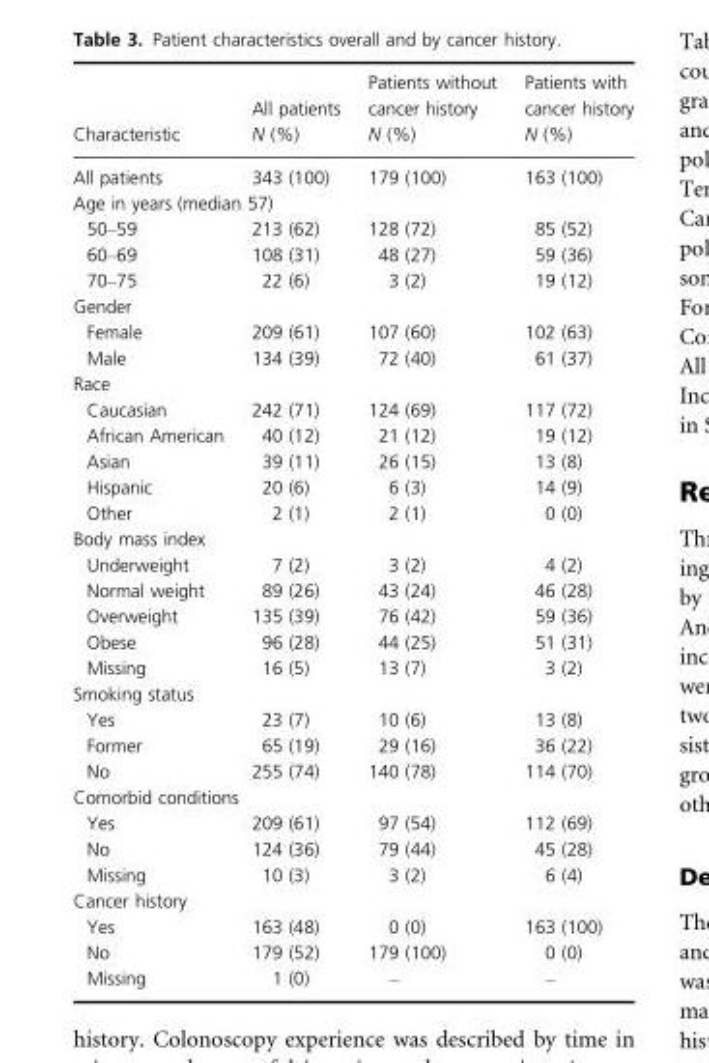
<table><thead><tr><td rowspan="2">Characteristic</td><td rowspan="2">All patients N (%)</td><td rowspan="2">Patients without cancer history N (%)</td><td rowspan="2">Patients with cancer history N (%)</td></tr><tr></tr></thead><tbody><tr><td>All patients</td><td>343 (100)</td><td>179 (100)</td><td>163 (100)</td></tr><tr><td colspan="4">Age in years (median 57)</td></tr><tr><td>50–59</td><td>213 (62)</td><td>128 (72)</td><td>85 (52)</td></tr><tr><td>60–69</td><td>108 (31)</td><td>48 (27)</td><td>59 (36)</td></tr><tr><td>70–75</td><td>22 (6)</td><td>3 (2)</td><td>19 (12)</td></tr><tr><td colspan="4">Gender</td></tr><tr><td>Female</td><td>209 (61)</td><td>107 (60)</td><td>102 (63)</td></tr><tr><td>Male</td><td>134 (39)</td><td>72 (40)</td><td>61 (37)</td></tr><tr><td colspan="4">Race</td></tr><tr><td>Caucasian</td><td>242 (71)</td><td>124 (69)</td><td>117 (72)</td></tr><tr><td>African American</td><td>40 (12)</td><td>21 (12)</td><td>19 (12)</td></tr><tr><td>Asian</td><td>39 (11)</td><td>26 (15)</td><td>13 (8)</td></tr><tr><td>Hispanic</td><td>20 (6)</td><td>6 (3)</td><td>14 (9)</td></tr><tr><td>Other</td><td>2 (1)</td><td>2 (1)</td><td>0 (0)</td></tr><tr><td colspan="4">Body mass index</td></tr><tr><td>Underweight</td><td>7 (2)</td><td>3 (2)</td><td>4 (2)</td></tr><tr><td>Normal weight</td><td>89 (26)</td><td>43 (24)</td><td>46 (28)</td></tr><tr><td>Overweight</td><td>135 (39)</td><td>76 (42)</td><td>59 (36)</td></tr><tr><td>Obese</td><td>96 (28)</td><td>44 (25)</td><td>51 (31)</td></tr><tr><td>Missing</td><td>16 (5)</td><td>13 (7)</td><td>3 (2)</td></tr><tr><td colspan="4">Smoking status</td></tr><tr><td>Yes</td><td>23 (7)</td><td>10 (6)</td><td>13 (8)</td></tr><tr><td>Former</td><td>65 (19)</td><td>29 (16)</td><td>36 (22)</td></tr><tr><td>No</td><td>255 (74)</td><td>140 (78)</td><td>114 (70)</td></tr><tr><td colspan="4">Comorbid conditions</td></tr><tr><td>Yes</td><td>209 (61)</td><td>97 (54)</td><td>112 (69)</td></tr><tr><td>No</td><td>124 (36)</td><td>79 (44)</td><td>45 (28)</td></tr><tr><td>Missing</td><td>10 (3)</td><td>3 (2)</td><td>6 (4)</td></tr><tr><td colspan="4">Cancer history</td></tr><tr><td>Yes</td><td>163 (48)</td><td>0 (0)</td><td>163 (100)</td></tr><tr><td>No</td><td>179 (52)</td><td>179 (100)</td><td>0 (0)</td></tr><tr><td>Missing</td><td>1 (0)</td><td>–</td><td>–</td></tr></tbody></table>